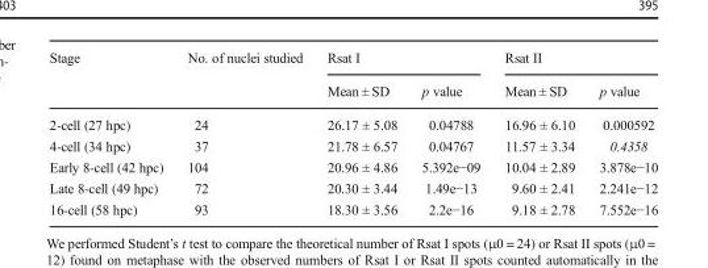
<table><thead><tr><td rowspan="2">Stage</td><td rowspan="2">No. of nuclei studied</td><td colspan="2">Rsat I</td><td colspan="2">Rsat II</td></tr><tr><td>Mean ± SD</td><td>p value</td><td>Mean ± SD</td><td>p value</td></tr></thead><tbody><tr><td>2-cell (27 hpc)</td><td>24</td><td>26.17 ± 5.08</td><td>0.04788</td><td>16.96 ± 6.10</td><td>0.000592</td></tr><tr><td>4-cell (34 hpc)</td><td>37</td><td>21.78 ± 6.57</td><td>0.04767</td><td>11.57 ± 3.34</td><td>0.4358</td></tr><tr><td>Early 8-cell (42 hpc)</td><td>104</td><td>20.96 ± 4.86</td><td>5.392e−09</td><td>10.04 ± 2.89</td><td>3.878e−10</td></tr><tr><td>Late 8-cell (49 hpc)</td><td>72</td><td>20.30 ± 3.44</td><td>1.49e−13</td><td>9.60 ± 2.41</td><td>2.241e−12</td></tr><tr><td>16-cell (58 hpc)</td><td>93</td><td>18.30 ± 3.56</td><td>2.2e−16</td><td>9.18 ± 2.78</td><td>7.552e−16</td></tr></tbody></table>